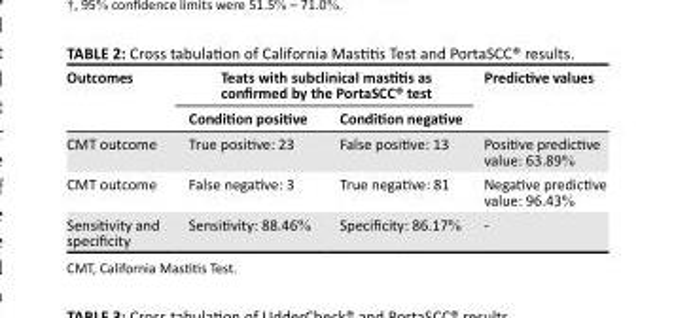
<table><thead><tr><td rowspan="2">Outcomes</td><td colspan="2">Teats with subclinical mastitis as confirmed by the PortaSCC<sup>®</sup> test</td><td rowspan="2">Predictive values</td></tr><tr><td>Condition positive</td><td>Condition negative</td></tr></thead><tbody><tr><td>CMT outcome</td><td>True positive: 23</td><td>False positive: 13</td><td>Positive predictive value: 63.89%</td></tr><tr><td>CMT outcome</td><td>False negative: 3</td><td>True negative: 81</td><td>Negative predictive value: 96.43%</td></tr><tr><td>Sensitivity and specificity</td><td>Sensitivity: 88.46%</td><td>Specificity: 86.17%</td><td>-</td></tr></tbody></table>